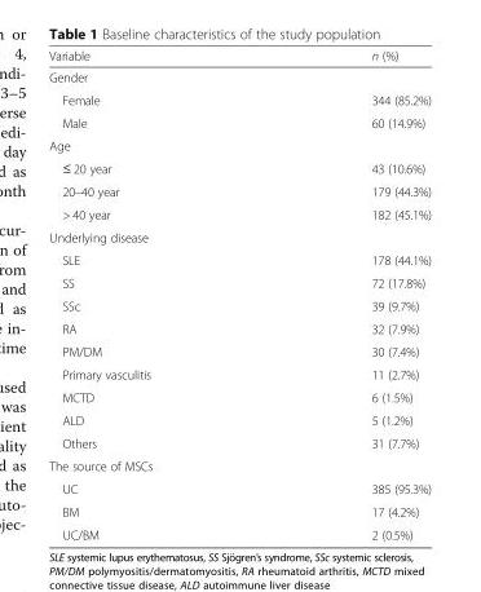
<table><thead><tr><td>Variable</td><td>n (%)</td></tr></thead><tbody><tr><td colspan="2">Gender</td></tr><tr><td>Female</td><td>344 (85.2%)</td></tr><tr><td>Male</td><td>60 (14.9%)</td></tr><tr><td colspan="2">Age</td></tr><tr><td>≤ 20 year</td><td>43 (10.6%)</td></tr><tr><td>20–40 year</td><td>179 (44.3%)</td></tr><tr><td>&gt; 40 year</td><td>182 (45.1%)</td></tr><tr><td colspan="2">Underlying disease</td></tr><tr><td>SLE</td><td>178 (44.1%)</td></tr><tr><td>SS</td><td>72 (17.8%)</td></tr><tr><td>SSc</td><td>39 (9.7%)</td></tr><tr><td>RA</td><td>32 (7.9%)</td></tr><tr><td>PM/DM</td><td>30 (7.4%)</td></tr><tr><td>Primary vasculitis</td><td>11 (2.7%)</td></tr><tr><td>MCTD</td><td>6 (1.5%)</td></tr><tr><td>ALD</td><td>5 (1.2%)</td></tr><tr><td>Others</td><td>31 (7.7%)</td></tr><tr><td colspan="2">The source of MSCs</td></tr><tr><td>UC</td><td>385 (95.3%)</td></tr><tr><td>BM</td><td>17 (4.2%)</td></tr><tr><td>UC/BM</td><td>2 (0.5%)</td></tr></tbody></table>